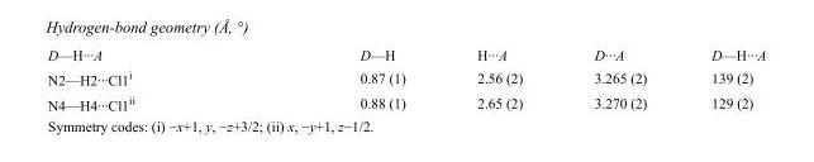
<table><tbody><tr><td>D—H···A</td><td>D—H</td><td>H···A</td><td>D···A</td><td>D—H···A</td></tr><tr><td>N2—H2···Cl1<sup>i</sup></td><td>0.87 (1)</td><td>2.56 (2)</td><td>3.265 (2)</td><td>139 (2)</td></tr><tr><td>N4—H4···Cl1<sup>ii</sup></td><td>0.88 (1)</td><td>2.65 (2)</td><td>3.270 (2)</td><td>129 (2)</td></tr></tbody></table>